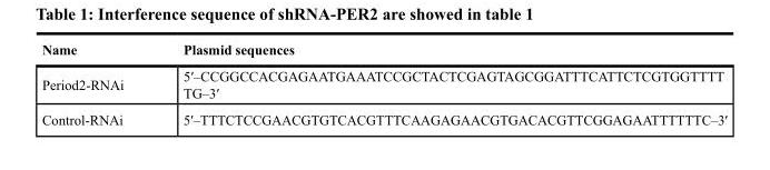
<table><thead><tr><td>Name</td><td>Plasmid sequences</td></tr></thead><tbody><tr><td>Period2-RNAi</td><td>5ʹ–CCGGCCACGAGAATGAAATCCGCTACTCGAGTAGCGGATTTCATTCTCGTGGTTTT TG–3ʹ</td></tr><tr><td>Control-RNAi</td><td>5ʹ–TTTCTCCGAACGTGTCACGTTTCAAGAGAACGTGACACGTTCGGAGAATTTTTTC–3ʹ</td></tr></tbody></table>